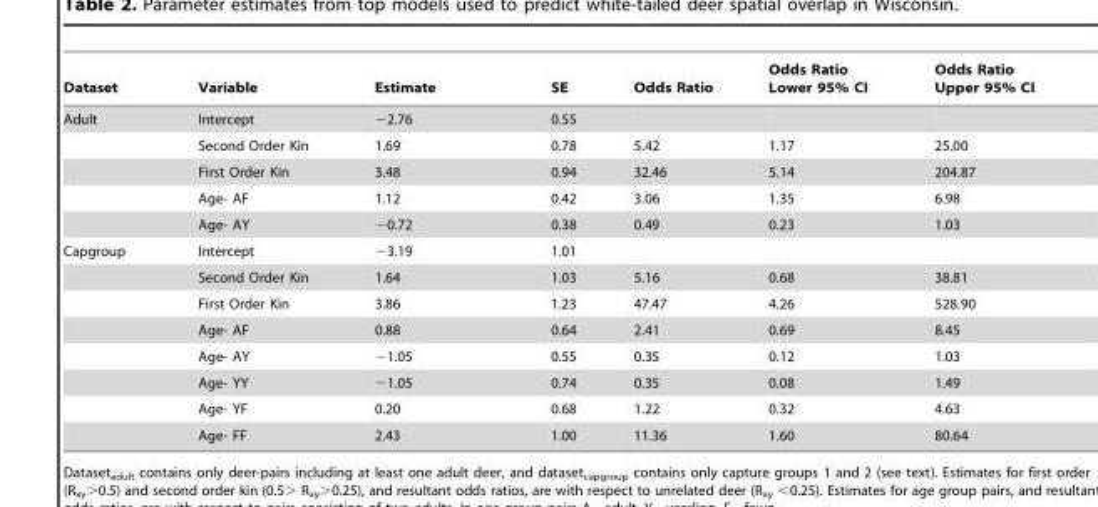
<table><thead><tr><td>Dataset</td><td>Variable</td><td>Estimate</td><td>SE</td><td>Odds Ratio</td><td>Odds Ratio Lower 95% CI</td><td>Odds Ratio Upper 95% CI</td></tr></thead><tbody><tr><td rowspan="5">Adult</td><td>Intercept</td><td>−2.76</td><td>0.55</td><td></td><td></td><td></td></tr><tr><td>Second Order Kin</td><td>1.69</td><td>0.78</td><td>5.42</td><td>1.17</td><td>25.00</td></tr><tr><td>First Order Kin</td><td>3.48</td><td>0.94</td><td>32.46</td><td>5.14</td><td>204.87</td></tr><tr><td>Age- AF</td><td>1.12</td><td>0.42</td><td>3.06</td><td>1.35</td><td>6.98</td></tr><tr><td>Age- AY</td><td>−0.72</td><td>0.38</td><td>0.49</td><td>0.23</td><td>1.03</td></tr><tr><td rowspan="8">Capgroup</td><td>Intercept</td><td>−3.19</td><td>1.01</td><td></td><td></td><td></td></tr><tr><td>Second Order Kin</td><td>1.64</td><td>1.03</td><td>5.16</td><td>0.68</td><td>38.81</td></tr><tr><td>First Order Kin</td><td>3.86</td><td>1.23</td><td>47.47</td><td>4.26</td><td>528.90</td></tr><tr><td>Age- AF</td><td>0.88</td><td>0.64</td><td>2.41</td><td>0.69</td><td>8.45</td></tr><tr><td>Age- AY</td><td>−1.05</td><td>0.55</td><td>0.35</td><td>0.12</td><td>1.03</td></tr><tr><td>Age- YY</td><td>−1.05</td><td>0.74</td><td>0.35</td><td>0.08</td><td>1.49</td></tr><tr><td>Age- YF</td><td>0.20</td><td>0.68</td><td>1.22</td><td>0.32</td><td>4.63</td></tr><tr><td>Age- FF</td><td>2.43</td><td>1.00</td><td>11.36</td><td>1.60</td><td>80.64</td></tr></tbody></table>